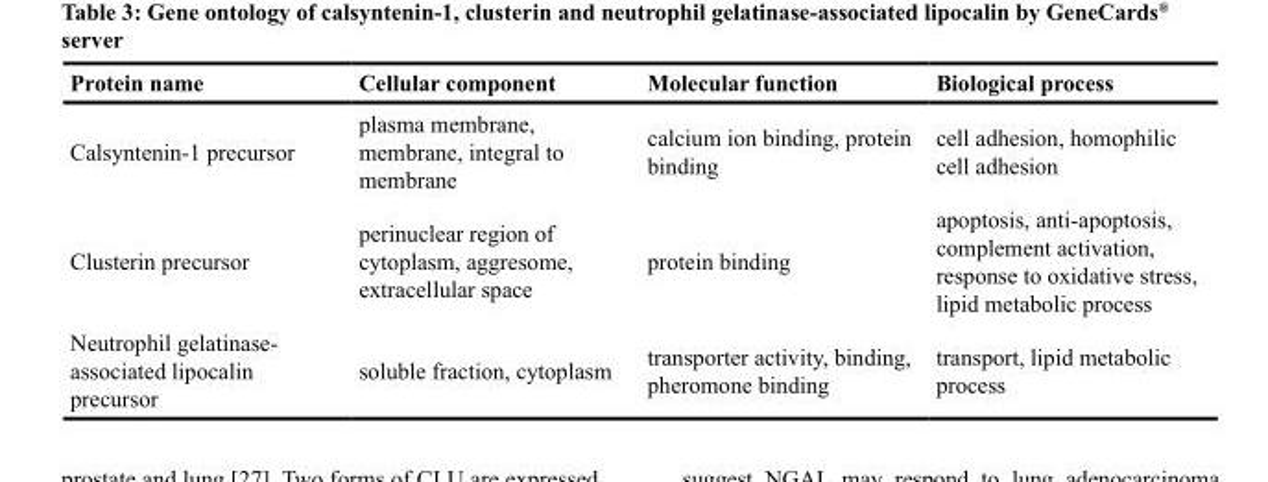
<table><thead><tr><td>Protein name</td><td>Cellular component</td><td>Molecular function</td><td>Biological process</td></tr></thead><tbody><tr><td>Calsyntenin-1 precursor</td><td>plasma membrane, membrane, integral to membrane</td><td>calcium ion binding, protein binding</td><td>cell adhesion, homophilic cell adhesion</td></tr><tr><td>Clusterin precursor</td><td>perinuclear region of cytoplasm, aggresome, extracellular space</td><td>protein binding</td><td>apoptosis, anti-apoptosis, complement activation, response to oxidative stress, lipid metabolic process</td></tr><tr><td>Neutrophil gelatinase- associated lipocalin precursor</td><td>soluble fraction, cytoplasm</td><td>transporter activity, binding, pheromone binding</td><td>transport, lipid metabolic process</td></tr></tbody></table>